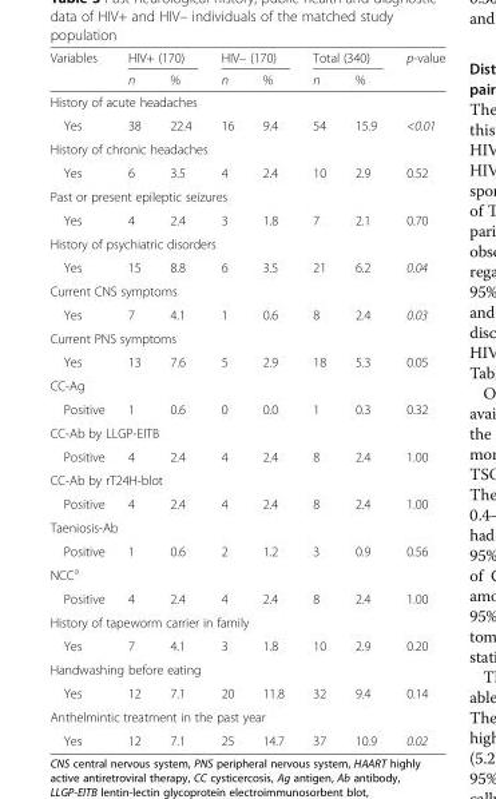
<table><thead><tr><td rowspan="2">Variables</td><td colspan="2">HIV+ (170)</td><td colspan="2">HIV– (170)</td><td colspan="2">Total (340)</td><td rowspan="2">p-value</td></tr><tr><td>n</td><td>%</td><td>n</td><td>%</td><td>n</td><td>%</td></tr></thead><tbody><tr><td colspan="8">History of acute headaches</td></tr><tr><td>Yes</td><td>38</td><td>22.4</td><td>16</td><td>9.4</td><td>54</td><td>15.9</td><td>&lt;0.01</td></tr><tr><td colspan="8">History of chronic headaches</td></tr><tr><td>Yes</td><td>6</td><td>3.5</td><td>4</td><td>2.4</td><td>10</td><td>2.9</td><td>0.52</td></tr><tr><td colspan="8">Past or present epileptic seizures</td></tr><tr><td>Yes</td><td>4</td><td>2.4</td><td>3</td><td>1.8</td><td>7</td><td>2.1</td><td>0.70</td></tr><tr><td colspan="8">History of psychiatric disorders</td></tr><tr><td>Yes</td><td>15</td><td>8.8</td><td>6</td><td>3.5</td><td>21</td><td>6.2</td><td>0.04</td></tr><tr><td colspan="8">Current CNS symptoms</td></tr><tr><td>Yes</td><td>7</td><td>4.1</td><td>1</td><td>0.6</td><td>8</td><td>2.4</td><td>0.03</td></tr><tr><td colspan="8">Current PNS symptoms</td></tr><tr><td>Yes</td><td>13</td><td>7.6</td><td>5</td><td>2.9</td><td>18</td><td>5.3</td><td>0.05</td></tr><tr><td colspan="8">CC-Ag</td></tr><tr><td>Positive</td><td>1</td><td>0.6</td><td>0</td><td>0.0</td><td>1</td><td>0.3</td><td>0.32</td></tr><tr><td colspan="8">CC-Ab by LLGP-EITB</td></tr><tr><td>Positive</td><td>4</td><td>2.4</td><td>4</td><td>2.4</td><td>8</td><td>2.4</td><td>1.00</td></tr><tr><td colspan="8">CC-Ab by rT24H-blot</td></tr><tr><td>Positive</td><td>4</td><td>2.4</td><td>4</td><td>2.4</td><td>8</td><td>2.4</td><td>1.00</td></tr><tr><td colspan="8">Taeniosis-Ab</td></tr><tr><td>Positive</td><td>1</td><td>0.6</td><td>2</td><td>1.2</td><td>3</td><td>0.9</td><td>0.56</td></tr><tr><td colspan="8">NCC<sup>a</sup></td></tr><tr><td>Positive</td><td>4</td><td>2.4</td><td>4</td><td>2.4</td><td>8</td><td>2.4</td><td>1.00</td></tr><tr><td colspan="8">History of tapeworm carrier in family</td></tr><tr><td>Yes</td><td>7</td><td>4.1</td><td>3</td><td>1.8</td><td>10</td><td>2.9</td><td>0.20</td></tr><tr><td colspan="8">Handwashing before eating</td></tr><tr><td>Yes</td><td>12</td><td>7.1</td><td>20</td><td>11.8</td><td>32</td><td>9.4</td><td>0.14</td></tr><tr><td colspan="8">Anthelmintic treatment in the past year</td></tr><tr><td>Yes</td><td>12</td><td>7.1</td><td>25</td><td>14.7</td><td>37</td><td>10.9</td><td>0.02</td></tr></tbody></table>